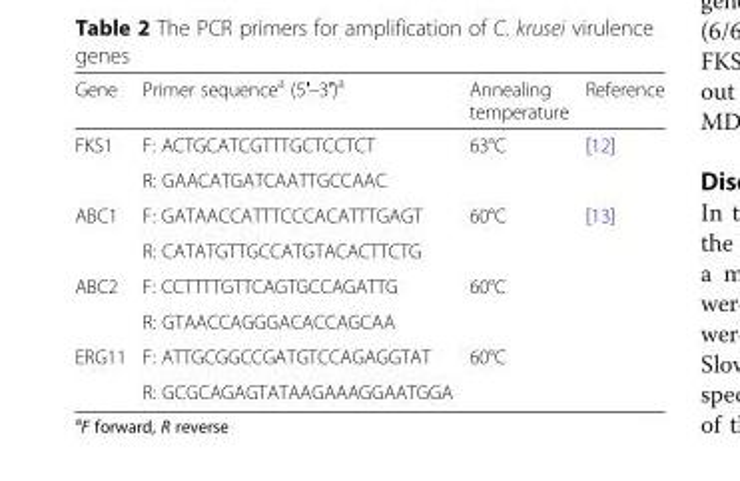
<table><thead><tr><td>Gene</td><td>Primer sequence<sup>a</sup> (5′–3′)<sup>a</sup></td><td>Annealing temperature</td><td>Reference</td></tr></thead><tbody><tr><td rowspan="2">FKS1</td><td>F: ACTGCATCGTTTGCTCCTCT</td><td rowspan="2">63°C</td><td>[12]</td></tr><tr><td>R: GAACATGATCAATTGCCAAC</td><td></td></tr><tr><td rowspan="2">ABC1</td><td>F: GATAACCATTTCCCACATTTGAGT</td><td rowspan="2">60°C</td><td rowspan="6">[13]</td></tr><tr><td>R: CATATGTTGCCATGTACACTTCTG</td></tr><tr><td rowspan="2">ABC2</td><td>F: CCTTTTGTTCAGTGCCAGATTG</td><td rowspan="2">60°C</td></tr><tr><td>R: GTAACCAGGGACACCAGCAA</td></tr><tr><td rowspan="2">ERG11</td><td>F: ATTGCGGCCGATGTCCAGAGGTAT</td><td rowspan="2">60°C</td></tr><tr><td>R: GCGCAGAGTATAAGAAAGGAATGGA</td></tr></tbody></table>